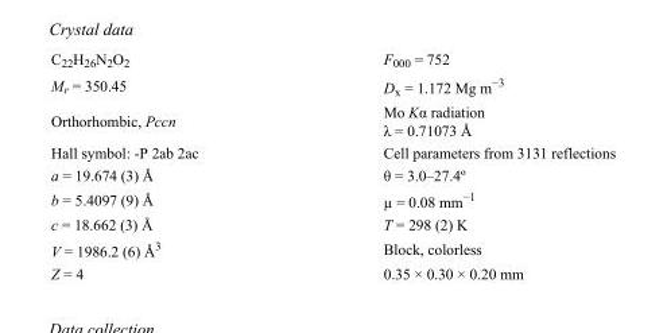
<table><tbody><tr><td>C<sub>22</sub>H<sub>26</sub>N<sub>2</sub>O<sub>2</sub></td><td>F<sub>000</sub> = 752</td></tr><tr><td>M<sub>r</sub> = 350.45</td><td>D<sub>x</sub> = 1.172 Mg m<sup>−3</sup></td></tr><tr><td>Orthorhombic, Pccn</td><td>Mo Kα radiation λ = 0.71073 Å</td></tr><tr><td>Hall symbol: -P 2ab 2ac</td><td>Cell parameters from 3131 reflections</td></tr><tr><td>a = 19.674 (3) Å</td><td>θ = 3.0–27.4º</td></tr><tr><td>b = 5.4097 (9) Å</td><td>µ = 0.08 mm<sup>−1</sup></td></tr><tr><td>c = 18.662 (3) Å</td><td>T = 298 (2) K</td></tr><tr><td>V = 1986.2 (6) Å<sup>3</sup></td><td>Block, colorless</td></tr><tr><td>Z = 4</td><td>0.35 × 0.30 × 0.20 mm</td></tr></tbody></table>